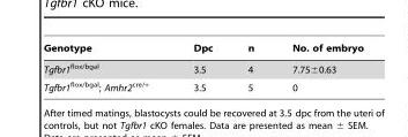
<table><thead><tr><td>Genotype</td><td>Dpc</td><td>n</td><td>No. of embryo</td></tr></thead><tbody><tr><td>Tgfbr1<sup>flox/bgal</sup></td><td>3.5</td><td>4</td><td>7.75±0.63</td></tr><tr><td>Tgfbr1<sup>flox/bgal</sup>; Amhr2<sup>cre/+</sup></td><td>3.5</td><td>5</td><td>0</td></tr></tbody></table>